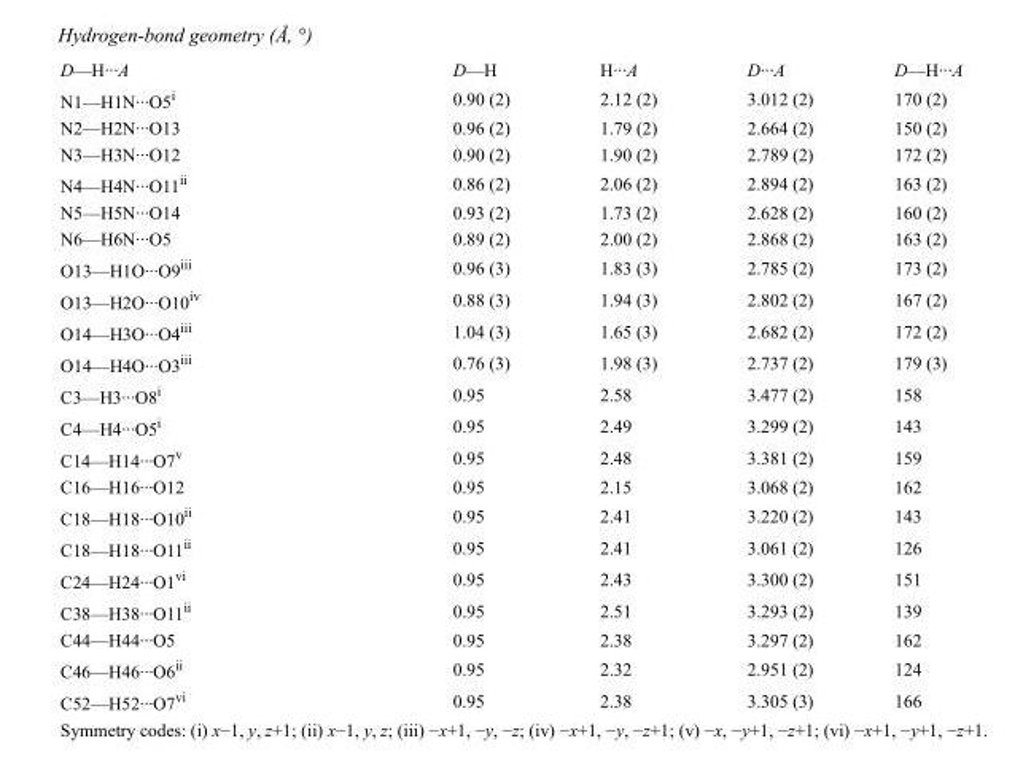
<table><tbody><tr><td>D—H···A</td><td>D—H</td><td>H···A</td><td>D···A</td><td>D—H···A</td></tr><tr><td>N1—H1N···O5<sup>i</sup></td><td>0.90 (2)</td><td>2.12 (2)</td><td>3.012 (2)</td><td>170 (2)</td></tr><tr><td>N2—H2N···O13</td><td>0.96 (2)</td><td>1.79 (2)</td><td>2.664 (2)</td><td>150 (2)</td></tr><tr><td>N3—H3N···O12</td><td>0.90 (2)</td><td>1.90 (2)</td><td>2.789 (2)</td><td>172 (2)</td></tr><tr><td>N4—H4N···O11<sup>ii</sup></td><td>0.86 (2)</td><td>2.06 (2)</td><td>2.894 (2)</td><td>163 (2)</td></tr><tr><td>N5—H5N···O14</td><td>0.93 (2)</td><td>1.73 (2)</td><td>2.628 (2)</td><td>160 (2)</td></tr><tr><td>N6—H6N···O5</td><td>0.89 (2)</td><td>2.00 (2)</td><td>2.868 (2)</td><td>163 (2)</td></tr><tr><td>O13—H1O···O9<sup>iii</sup></td><td>0.96 (3)</td><td>1.83 (3)</td><td>2.785 (2)</td><td>173 (2)</td></tr><tr><td>O13—H2O···O10<sup>iv</sup></td><td>0.88 (3)</td><td>1.94 (3)</td><td>2.802 (2)</td><td>167 (2)</td></tr><tr><td>O14—H3O···O4<sup>iii</sup></td><td>1.04 (3)</td><td>1.65 (3)</td><td>2.682 (2)</td><td>172 (2)</td></tr><tr><td>O14—H4O···O3<sup>iii</sup></td><td>0.76 (3)</td><td>1.98 (3)</td><td>2.737 (2)</td><td>179 (3)</td></tr><tr><td>C3—H3···O8<sup>i</sup></td><td>0.95</td><td>2.58</td><td>3.477 (2)</td><td>158</td></tr><tr><td>C4—H4···O5<sup>i</sup></td><td>0.95</td><td>2.49</td><td>3.299 (2)</td><td>143</td></tr><tr><td>C14—H14···O7<sup>v</sup></td><td>0.95</td><td>2.48</td><td>3.381 (2)</td><td>159</td></tr><tr><td>C16—H16···O12</td><td>0.95</td><td>2.15</td><td>3.068 (2)</td><td>162</td></tr><tr><td>C18—H18···O10<sup>ii</sup></td><td>0.95</td><td>2.41</td><td>3.220 (2)</td><td>143</td></tr><tr><td>C18—H18···O11<sup>ii</sup></td><td>0.95</td><td>2.41</td><td>3.061 (2)</td><td>126</td></tr><tr><td>C24—H24···O1<sup>vi</sup></td><td>0.95</td><td>2.43</td><td>3.300 (2)</td><td>151</td></tr><tr><td>C38—H38···O11<sup>ii</sup></td><td>0.95</td><td>2.51</td><td>3.293 (2)</td><td>139</td></tr><tr><td>C44—H44···O5</td><td>0.95</td><td>2.38</td><td>3.297 (2)</td><td>162</td></tr><tr><td>C46—H46···O6<sup>ii</sup></td><td>0.95</td><td>2.32</td><td>2.951 (2)</td><td>124</td></tr><tr><td>C52—H52···O7<sup>vi</sup></td><td>0.95</td><td>2.38</td><td>3.305 (3)</td><td>166</td></tr></tbody></table>